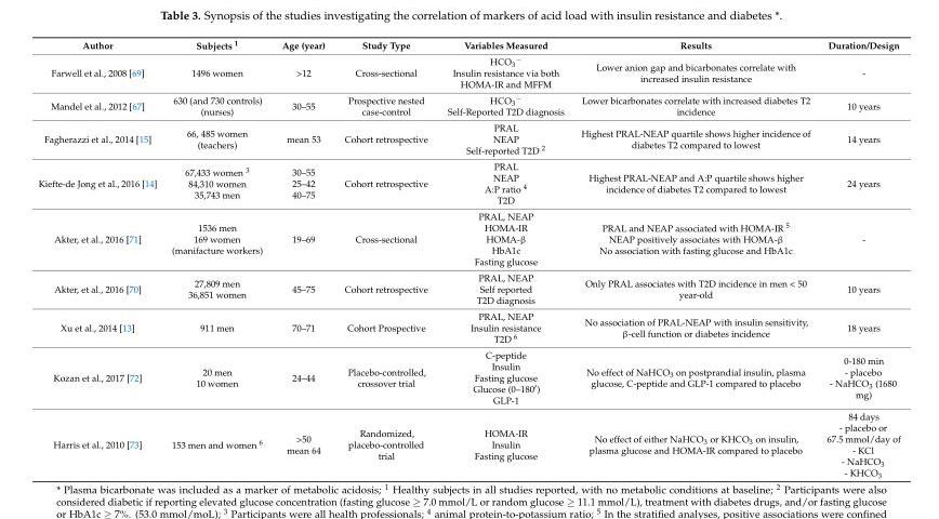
<table><thead><tr><td>Author</td><td>Subjects <sup>1</sup></td><td>Age (year)</td><td>Study Type</td><td>Variables Measured</td><td>Results</td><td>Duration/Design</td></tr></thead><tbody><tr><td>Farwell et al., 2008 [69]</td><td>1496 women</td><td>&gt;12</td><td>Cross-sectional</td><td>HCO<sub>3</sub><sup>−</sup> Insulin resistance via both HOMA-IR and MFFM</td><td>Lower anion gap and bicarbonates correlate with increased insulin resistance</td><td>-</td></tr><tr><td>Mandel et al., 2012 [67]</td><td>630 (and 730 controls) (nurses)</td><td>30–55</td><td>Prospective nested case-control</td><td>HCO<sub>3</sub><sup>−</sup> Self-Reported T2D diagnosis</td><td>Lower bicarbonates correlate with increased diabetes T2 incidence</td><td>10 years</td></tr><tr><td>Fagherazzi et al., 2014 [15]</td><td>66, 485 women (teachers)</td><td>mean 53</td><td>Cohort retrospective</td><td>PRAL NEAP Self-reported T2D <sup>2</sup></td><td>Highest PRAL-NEAP quartile shows higher incidence of diabetes T2 compared to lowest</td><td>14 years</td></tr><tr><td>Kiefte-de Jong et al., 2016 [14]</td><td>67,433 women <sup>3</sup> 84,310 women 35,743 men</td><td>30–55 25–42 40–75</td><td>Cohort retrospective</td><td>PRAL NEAP A:P ratio <sup>4</sup> T2D</td><td>Highest PRAL-NEAP and A:P quartile shows higher incidence of diabetes T2 compared to lowest</td><td>24 years</td></tr><tr><td>Akter, et al., 2016 [71]</td><td>1536 men 169 women (manifacture workers)</td><td>19–69</td><td>Cross-sectional</td><td>PRAL, NEAP HOMA-IR HOMA-β HbA1c Fasting glucose</td><td>PRAL and NEAP associated with HOMA-IR <sup>5</sup> NEAP positively associates with HOMA-β No association with fasting glucose and HbA1c</td><td>-</td></tr><tr><td>Akter, et al., 2016 [70]</td><td>27,809 men 36,851 women</td><td>45–75</td><td>Cohort retrospective</td><td>PRAL, NEAP Self reported T2D diagnosis</td><td>Only PRAL associates with T2D incidence in men &lt; 50 year-old</td><td>10 years</td></tr><tr><td>Xu et al., 2014 [13]</td><td>911 men</td><td>70–71</td><td>Cohort Prospective</td><td>PRAL, NEAP Insulin resistance T2D <sup>6</sup></td><td>No association of PRAL-NEAP with insulin sensitivity, β-cell function or diabetes incidence</td><td>18 years</td></tr><tr><td>Kozan et al., 2017 [72]</td><td>20 men 10 women</td><td>24–44</td><td>Placebo-controlled, crossover trial</td><td>C-peptide Insulin Fasting glucose Glucose (0–180′) GLP-1</td><td>No effect of NaHCO<sub>3</sub> on postprandial insulin, plasma glucose, C-peptide and GLP-1 compared to placebo</td><td>0-180 min - placebo - NaHCO<sub>3</sub> (1680 mg)</td></tr><tr><td>Harris et al., 2010 [73]</td><td>153 men and women <sup>6</sup></td><td>&gt;50 mean 64</td><td>Randomized, placebo-controlled trial</td><td>HOMA-IR Insulin Fasting glucose</td><td>No effect of either NaHCO<sub>3</sub> or KHCO<sub>3</sub> on insulin, plasma glucose and HOMA-IR compared to placebo</td><td>84 days - placebo or 67.5 mmol/day of - KCl - NaHCO<sub>3</sub> - KHCO<sub>3</sub></td></tr></tbody></table>